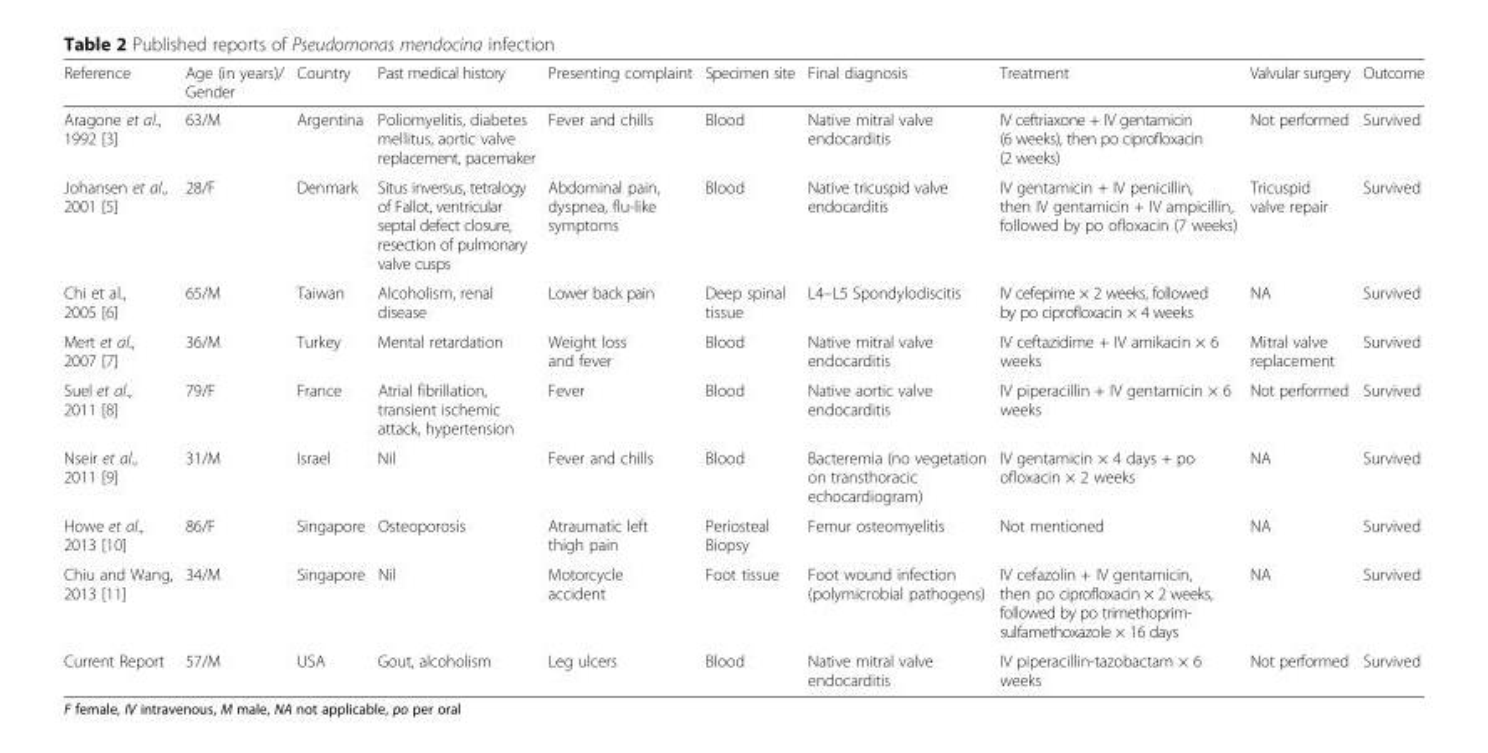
<table><thead><tr><td>Reference</td><td>Age (in years)/ Gender</td><td>Country</td><td>Past medical history</td><td>Presenting complaint</td><td>Specimen site</td><td>Final diagnosis</td><td>Treatment</td><td>Valvular surgery</td><td>Outcome</td></tr></thead><tbody><tr><td>Aragone et al., 1992 [3]</td><td>63/M</td><td>Argentina</td><td>Poliomyelitis, diabetes mellitus, aortic valve replacement, pacemaker</td><td>Fever and chills</td><td>Blood</td><td>Native mitral valve endocarditis</td><td>IV ceftriaxone + IV gentamicin (6 weeks), then po ciprofloxacin (2 weeks)</td><td>Not performed</td><td>Survived</td></tr><tr><td>Johansen et al., 2001 [5]</td><td>28/F</td><td>Denmark</td><td>Situs inversus, tetralogy of Fallot, ventricular septal defect closure, resection of pulmonary valve cusps</td><td>Abdominal pain, dyspnea, flu-like symptoms</td><td>Blood</td><td>Native tricuspid valve endocarditis</td><td>IV gentamicin + IV penicillin, then IV gentamicin + IV ampicillin, followed by po ofloxacin (7 weeks)</td><td>Tricuspid valve repair</td><td>Survived</td></tr><tr><td>Chi et al., 2005 [6]</td><td>65/M</td><td>Taiwan</td><td>Alcoholism, renal disease</td><td>Lower back pain</td><td>Deep spinal tissue</td><td>L4–L5 Spondylodiscitis</td><td>IV cefepime × 2 weeks, followed by po ciprofloxacin × 4 weeks</td><td>NA</td><td>Survived</td></tr><tr><td>Mert et al., 2007 [7]</td><td>36/M</td><td>Turkey</td><td>Mental retardation</td><td>Weight loss and fever</td><td>Blood</td><td>Native mitral valve endocarditis</td><td>IV ceftazidime + IV amikacin × 6 weeks</td><td>Mitral valve replacement</td><td>Survived</td></tr><tr><td>Suel et al., 2011 [8]</td><td>79/F</td><td>France</td><td>Atrial fibrillation, transient ischemic attack, hypertension</td><td>Fever</td><td>Blood</td><td>Native aortic valve endocarditis</td><td>IV piperacillin + IV gentamicin × 6 weeks</td><td>Not performed</td><td>Survived</td></tr><tr><td>Nseir et al., 2011 [9]</td><td>31/M</td><td>Israel</td><td>Nil</td><td>Fever and chills</td><td>Blood</td><td>Bacteremia (no vegetation on transthoracic echocardiogram)</td><td>IV gentamicin × 4 days + po ofloxacin × 2 weeks</td><td>NA</td><td>Survived</td></tr><tr><td>Howe et al., 2013 [10]</td><td>86/F</td><td>Singapore</td><td>Osteoporosis</td><td>Atraumatic left thigh pain</td><td>Periosteal Biopsy</td><td>Femur osteomyelitis</td><td>Not mentioned</td><td>NA</td><td>Survived</td></tr><tr><td>Chiu and Wang, 2013 [11]</td><td>34/M</td><td>Singapore</td><td>Nil</td><td>Motorcycle accident</td><td>Foot tissue</td><td>Foot wound infection (polymicrobial pathogens)</td><td>IV cefazolin + IV gentamicin, then po ciprofloxacin × 2 weeks, followed by po trimethoprim- sulfamethoxazole × 16 days</td><td>NA</td><td>Survived</td></tr><tr><td>Current Report</td><td>57/M</td><td>USA</td><td>Gout, alcoholism</td><td>Leg ulcers</td><td>Blood</td><td>Native mitral valve endocarditis</td><td>IV piperacillin-tazobactam × 6 weeks</td><td>Not performed</td><td>Survived</td></tr></tbody></table>